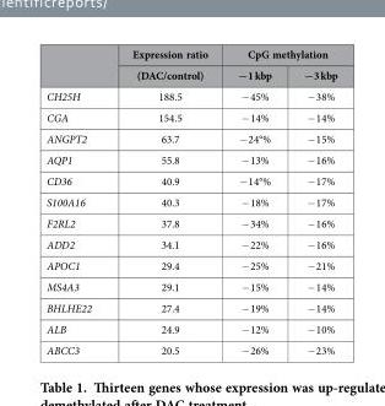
<table><thead><tr><td rowspan="2"></td><td rowspan="2">Expression ratio (DAC/control)</td><td colspan="2">CpG methylation</td></tr><tr><td>−1 kbp</td><td>−3 kbp</td></tr></thead><tbody><tr><td>CH25H</td><td>188.5</td><td>− 45%</td><td>− 38%</td></tr><tr><td>CGA</td><td>154.5</td><td>− 14%</td><td>− 14%</td></tr><tr><td>ANGPT2</td><td>63.7</td><td>− 24°%</td><td>− 15%</td></tr><tr><td>AQP1</td><td>55.8</td><td>− 13%</td><td>− 16%</td></tr><tr><td>CD36</td><td>40.9</td><td>− 14°%</td><td>− 17%</td></tr><tr><td>S100A16</td><td>40.3</td><td>− 18%</td><td>− 17%</td></tr><tr><td>F2RL2</td><td>37.8</td><td>− 34%</td><td>− 16%</td></tr><tr><td>ADD2</td><td>34.1</td><td>− 22%</td><td>− 16%</td></tr><tr><td>APOC1</td><td>29.4</td><td>− 25%</td><td>− 21%</td></tr><tr><td>MS4A3</td><td>29.1</td><td>− 15%</td><td>− 14%</td></tr><tr><td>BHLHE22</td><td>27.4</td><td>− 19%</td><td>− 14%</td></tr><tr><td>ALB</td><td>24.9</td><td>− 12%</td><td>− 10%</td></tr><tr><td>ABCC3</td><td>20.5</td><td>− 26%</td><td>− 23%</td></tr></tbody></table>